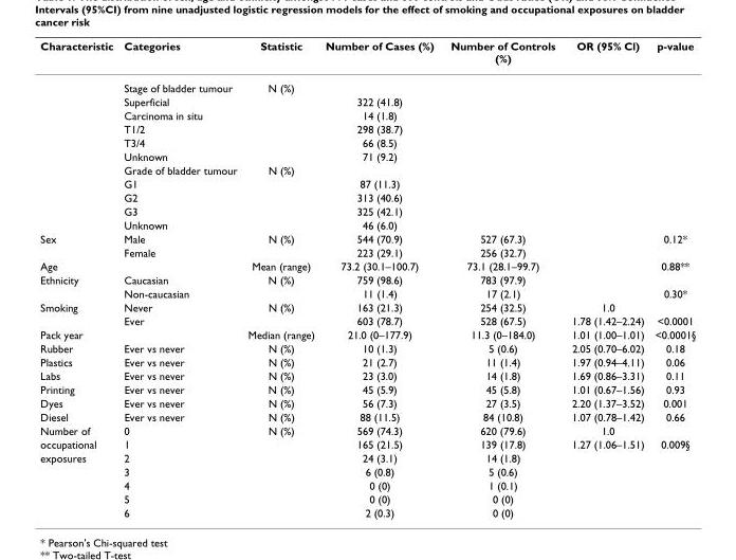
<table><thead><tr><td>Characteristic</td><td>Categories</td><td>Statistic</td><td>Number of Cases (%)</td><td>Number of Controls (%)</td><td>OR (95% Cl)</td><td>p-value</td></tr></thead><tbody><tr><td></td><td>Stage of bladder tumour</td><td>N (%)</td><td></td><td></td><td></td><td></td></tr><tr><td></td><td>Superficial</td><td></td><td>322 (41.8)</td><td></td><td></td><td></td></tr><tr><td></td><td>Carcinoma in situ</td><td></td><td>14 (1.8)</td><td></td><td></td><td></td></tr><tr><td></td><td>T1/2</td><td></td><td>298 (38.7)</td><td></td><td></td><td></td></tr><tr><td></td><td>T3/4</td><td></td><td>66 (8.5)</td><td></td><td></td><td></td></tr><tr><td></td><td>Unknown</td><td></td><td>71 (9.2)</td><td></td><td></td><td></td></tr><tr><td></td><td>Grade of bladder tumour</td><td>N (%)</td><td></td><td></td><td></td><td></td></tr><tr><td></td><td>G1</td><td></td><td>87 (11.3)</td><td></td><td></td><td></td></tr><tr><td></td><td>G2</td><td></td><td>313 (40.6)</td><td></td><td></td><td></td></tr><tr><td></td><td>G3</td><td></td><td>325 (42.1)</td><td></td><td></td><td></td></tr><tr><td></td><td>Unknown</td><td></td><td>46 (6.0)</td><td></td><td></td><td></td></tr><tr><td rowspan="2">Sex</td><td>Male</td><td>N (%)</td><td>544 (70.9)</td><td>527 (67.3)</td><td></td><td>0.12*</td></tr><tr><td>Female</td><td></td><td>223 (29.1)</td><td>256 (32.7)</td><td></td><td></td></tr><tr><td>Age</td><td></td><td>Mean (range)</td><td>73.2 (30.1–100.7)</td><td>73.1 (28.1–99.7)</td><td></td><td>0.88**</td></tr><tr><td rowspan="2">Ethnicity</td><td>Caucasian</td><td>N (%)</td><td>759 (98.6)</td><td>783 (97.9)</td><td></td><td></td></tr><tr><td>Non-caucasian</td><td></td><td>11 (1.4)</td><td>17 (2.1)</td><td></td><td>0.30*</td></tr><tr><td rowspan="2">Smoking</td><td>Never</td><td>N (%)</td><td>163 (21.3)</td><td>254 (32.5)</td><td>1.0</td><td></td></tr><tr><td>Ever</td><td></td><td>603 (78.7)</td><td>528 (67.5)</td><td>1.78 (1.42–2.24)</td><td>&lt;0.0001</td></tr><tr><td>Pack year</td><td></td><td>Median (range)</td><td>21.0 (0–177.9)</td><td>11.3 (0–184.0)</td><td>1.01 (1.00–1.01)</td><td>&lt;0.0001§</td></tr><tr><td>Rubber</td><td>Ever vs never</td><td>N (%)</td><td>10 (1.3)</td><td>5 (0.6)</td><td>2.05 (0.70–6.02)</td><td>0.18</td></tr><tr><td>Plastics</td><td>Ever vs never</td><td>N (%)</td><td>21 (2.7)</td><td>11 (1.4)</td><td>1.97 (0.94–4.11)</td><td>0.06</td></tr><tr><td>Labs</td><td>Ever vs never</td><td>N (%)</td><td>23 (3.0)</td><td>14 (1.8)</td><td>1.69 (0.86–3.31)</td><td>0.11</td></tr><tr><td>Printing</td><td>Ever vs never</td><td>N (%)</td><td>45 (5.9)</td><td>45 (5.8)</td><td>1.01 (0.67–1.56)</td><td>0.93</td></tr><tr><td>Dyes</td><td>Ever vs never</td><td>N (%)</td><td>56 (7.3)</td><td>27 (3.5)</td><td>2.20 (1.37–3.52)</td><td>0.001</td></tr><tr><td>Diesel</td><td>Ever vs never</td><td>N (%)</td><td>88 (11.5)</td><td>84 (10.8)</td><td>1.07 (0.78–1.42)</td><td>0.66</td></tr><tr><td>Number of</td><td>0</td><td>N (%)</td><td>569 (74.3)</td><td>620 (79.6)</td><td>1.0</td><td></td></tr><tr><td>occupational</td><td>1</td><td></td><td>165 (21.5)</td><td>139 (17.8)</td><td>1.27 (1.06–1.51)</td><td>0.009§</td></tr><tr><td rowspan="5">exposures</td><td>2</td><td></td><td>24 (3.1)</td><td>14 (1.8)</td><td></td><td></td></tr><tr><td>3</td><td></td><td>6 (0.8)</td><td>5 (0.6)</td><td></td><td></td></tr><tr><td>4</td><td></td><td>0 (0)</td><td>1 (0.1)</td><td></td><td></td></tr><tr><td>5</td><td></td><td>0 (0)</td><td>0 (0)</td><td></td><td></td></tr><tr><td>6</td><td></td><td>2 (0.3)</td><td>0 (0)</td><td></td><td></td></tr></tbody></table>